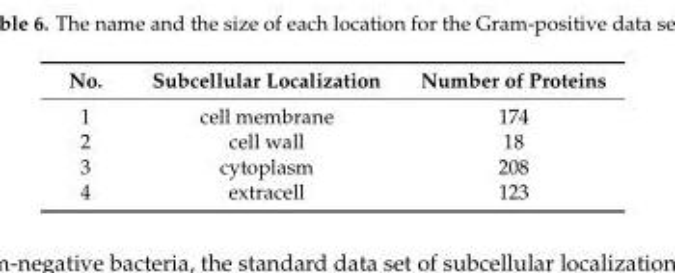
<table><thead><tr><td>No.</td><td>Subcellular Localization</td><td>Number of Proteins</td></tr></thead><tbody><tr><td>1</td><td>cell membrane</td><td>174</td></tr><tr><td>2</td><td>cell wall</td><td>18</td></tr><tr><td>3</td><td>cytoplasm</td><td>208</td></tr><tr><td>4</td><td>extracell</td><td>123</td></tr></tbody></table>